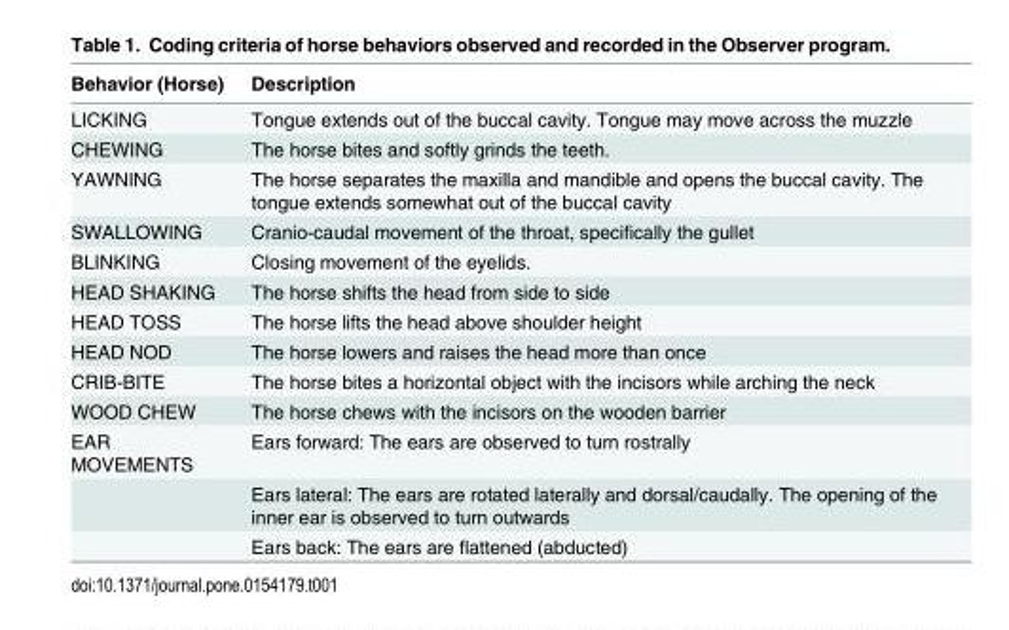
<table><thead><tr><td>Behavior (Horse)</td><td>Description</td></tr></thead><tbody><tr><td>LICKING</td><td>Tongue extends out of the buccal cavity. Tongue may move across the muzzle</td></tr><tr><td>CHEWING</td><td>The horse bites and softly grinds the teeth.</td></tr><tr><td>YAWNING</td><td>The horse separates the maxilla and mandible and opens the buccal cavity. The tongue extends somewhat out of the buccal cavity</td></tr><tr><td>SWALLOWING</td><td>Cranio-caudal movement of the throat, specifically the gullet</td></tr><tr><td>BLINKING</td><td>Closing movement of the eyelids.</td></tr><tr><td>HEAD SHAKING</td><td>The horse shifts the head from side to side</td></tr><tr><td>HEAD TOSS</td><td>The horse lifts the head above shoulder height</td></tr><tr><td>HEAD NOD</td><td>The horse lowers and raises the head more than once</td></tr><tr><td>CRIB-BITE</td><td>The horse bites a horizontal object with the incisors while arching the neck</td></tr><tr><td>WOOD CHEW</td><td>The horse chews with the incisors on the wooden barrier</td></tr><tr><td rowspan="3">EAR MOVEMENTS</td><td>Ears forward: The ears are observed to turn rostrally</td></tr><tr><td>Ears lateral: The ears are rotated laterally and dorsal/caudally. The opening of the inner ear is observed to turn outwards</td></tr><tr><td>Ears back: The ears are flattened (abducted)</td></tr></tbody></table>